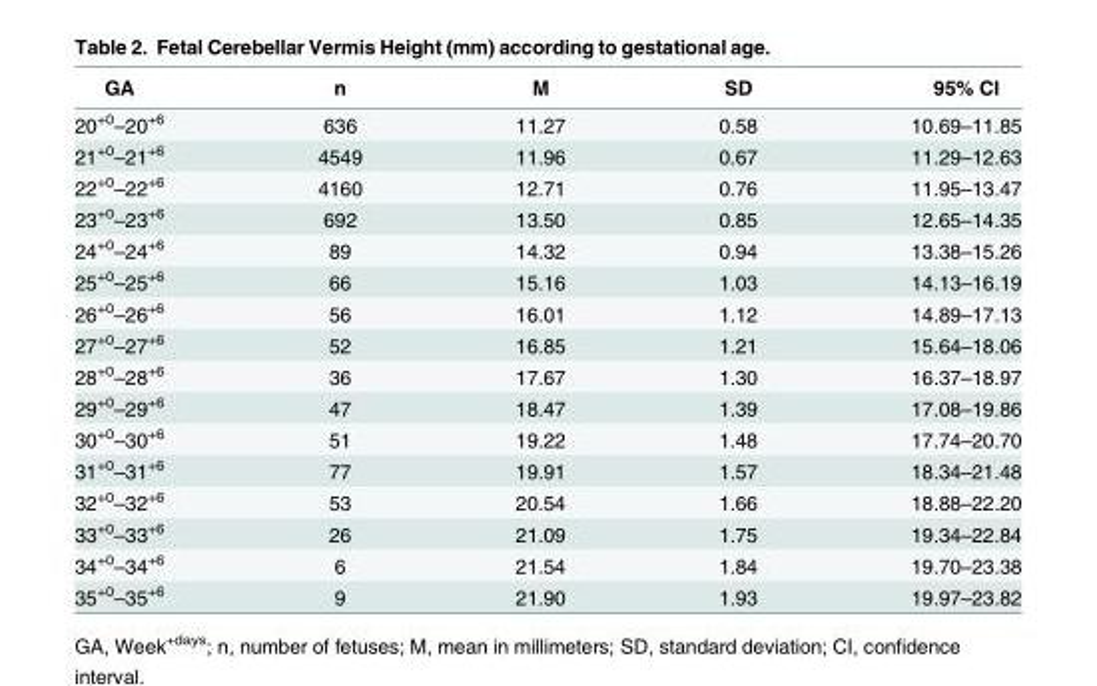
<table><thead><tr><td>GA</td><td>n</td><td>M</td><td>SD</td><td>95% CI</td></tr></thead><tbody><tr><td>20<sup>+0</sup>–20<sup>+6</sup></td><td>636</td><td>11.27</td><td>0.58</td><td>10.69–11.85</td></tr><tr><td>21<sup>+0</sup>–21<sup>+6</sup></td><td>4549</td><td>11.96</td><td>0.67</td><td>11.29–12.63</td></tr><tr><td>22<sup>+0</sup>–22<sup>+6</sup></td><td>4160</td><td>12.71</td><td>0.76</td><td>11.95–13.47</td></tr><tr><td>23<sup>+0</sup>–23<sup>+6</sup></td><td>692</td><td>13.50</td><td>0.85</td><td>12.65–14.35</td></tr><tr><td>24<sup>+0</sup>–24<sup>+6</sup></td><td>89</td><td>14.32</td><td>0.94</td><td>13.38–15.26</td></tr><tr><td>25<sup>+0</sup>–25<sup>+6</sup></td><td>66</td><td>15.16</td><td>1.03</td><td>14.13–16.19</td></tr><tr><td>26<sup>+0</sup>–26<sup>+6</sup></td><td>56</td><td>16.01</td><td>1.12</td><td>14.89–17.13</td></tr><tr><td>27<sup>+0</sup>–27<sup>+6</sup></td><td>52</td><td>16.85</td><td>1.21</td><td>15.64–18.06</td></tr><tr><td>28<sup>+0</sup>–28<sup>+6</sup></td><td>36</td><td>17.67</td><td>1.30</td><td>16.37–18.97</td></tr><tr><td>29<sup>+0</sup>–29<sup>+6</sup></td><td>47</td><td>18.47</td><td>1.39</td><td>17.08–19.86</td></tr><tr><td>30<sup>+0</sup>–30<sup>+6</sup></td><td>51</td><td>19.22</td><td>1.48</td><td>17.74–20.70</td></tr><tr><td>31<sup>+0</sup>–31<sup>+6</sup></td><td>77</td><td>19.91</td><td>1.57</td><td>18.34–21.48</td></tr><tr><td>32<sup>+0</sup>–32<sup>+6</sup></td><td>53</td><td>20.54</td><td>1.66</td><td>18.88–22.20</td></tr><tr><td>33<sup>+0</sup>–33<sup>+6</sup></td><td>26</td><td>21.09</td><td>1.75</td><td>19.34–22.84</td></tr><tr><td>34<sup>+0</sup>–34<sup>+6</sup></td><td>6</td><td>21.54</td><td>1.84</td><td>19.70–23.38</td></tr><tr><td>35<sup>+0</sup>–35<sup>+6</sup></td><td>9</td><td>21.90</td><td>1.93</td><td>19.97–23.82</td></tr></tbody></table>